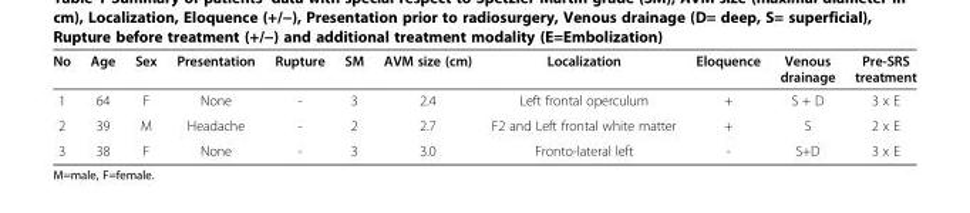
<table><thead><tr><td>No</td><td>Age</td><td>Sex</td><td>Presentation</td><td>Rupture</td><td>SM</td><td>AVM size (cm)</td><td>Localization</td><td>Eloquence</td><td>Venous drainage</td><td>Pre-SRS treatment</td></tr></thead><tbody><tr><td>1</td><td>64</td><td>F</td><td>None</td><td>-</td><td>3</td><td>2.4</td><td>Left frontal operculum</td><td>+</td><td>S + D</td><td>3 x E</td></tr><tr><td>2</td><td>39</td><td>M</td><td>Headache</td><td>-</td><td>2</td><td>2.7</td><td>F2 and Left frontal white matter</td><td>+</td><td>S</td><td>2 x E</td></tr><tr><td>3</td><td>38</td><td>F</td><td>None</td><td>-</td><td>3</td><td>3.0</td><td>Fronto-lateral left</td><td>-</td><td>S+D</td><td>3 x E</td></tr></tbody></table>